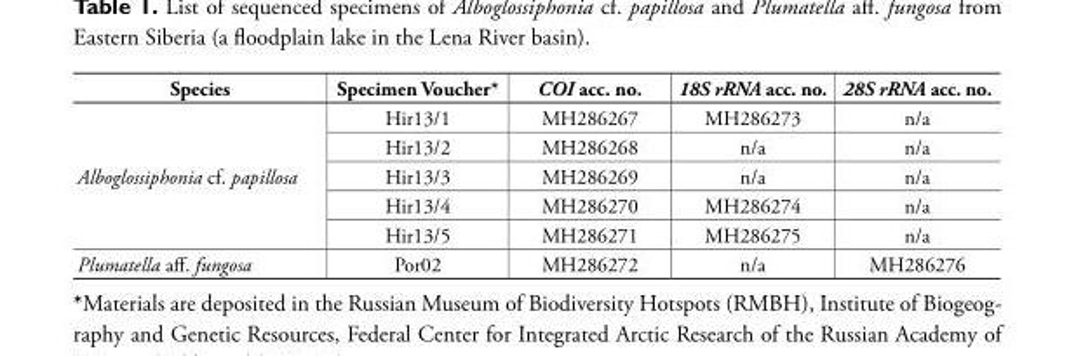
<table><thead><tr><td>Species</td><td>Specimen Voucher*</td><td>COI acc. no.</td><td>18S rRNA acc. no.</td><td>28S rRNA acc. no.</td></tr></thead><tbody><tr><td rowspan="5">Alboglossiphonia cf. papillosa</td><td>Hir13/1</td><td>MH286267</td><td>MH286273</td><td>n/a</td></tr><tr><td>Hir13/2</td><td>MH286268</td><td>n/a</td><td>n/a</td></tr><tr><td>Hir13/3</td><td>MH286269</td><td>n/a</td><td>n/a</td></tr><tr><td>Hir13/4</td><td>MH286270</td><td>MH286274</td><td>n/a</td></tr><tr><td>Hir13/5</td><td>MH286271</td><td>MH286275</td><td>n/a</td></tr><tr><td>Plumatella aff. fungosa</td><td>Por02</td><td>MH286272</td><td>n/a</td><td>MH286276</td></tr></tbody></table>